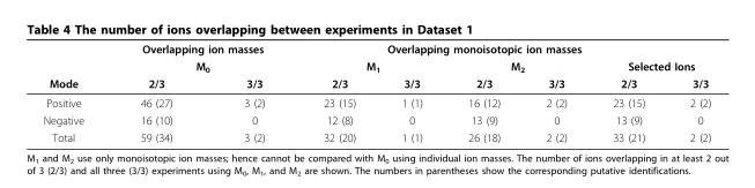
<table><thead><tr><td rowspan="3">Mode</td><td rowspan="2" colspan="2">Overlapping ion masses M<sub>0</sub></td><td colspan="5">Overlapping monoisotopic ion masses</td><td></td></tr><tr><td colspan="2">M<sub>1</sub></td><td colspan="2">M<sub>2</sub></td><td colspan="2">Selected Ions</td></tr><tr><td>2/3</td><td>3/3</td><td>2/3</td><td>3/3</td><td>2/3</td><td>3/3</td><td>2/3</td><td>3/3</td></tr></thead><tbody><tr><td>Positive</td><td>46 (27)</td><td>3 (2)</td><td>23 (15)</td><td>1 (1)</td><td>16 (12)</td><td>2 (2)</td><td>23 (15)</td><td>2 (2)</td></tr><tr><td>Negative</td><td>16 (10)</td><td>0</td><td>12 (8)</td><td>0</td><td>13 (9)</td><td>0</td><td>13 (9)</td><td>0</td></tr><tr><td>Total</td><td>59 (34)</td><td>3 (2)</td><td>32 (20)</td><td>1 (1)</td><td>26 (18)</td><td>2 (2)</td><td>33 (21)</td><td>2 (2)</td></tr></tbody></table>